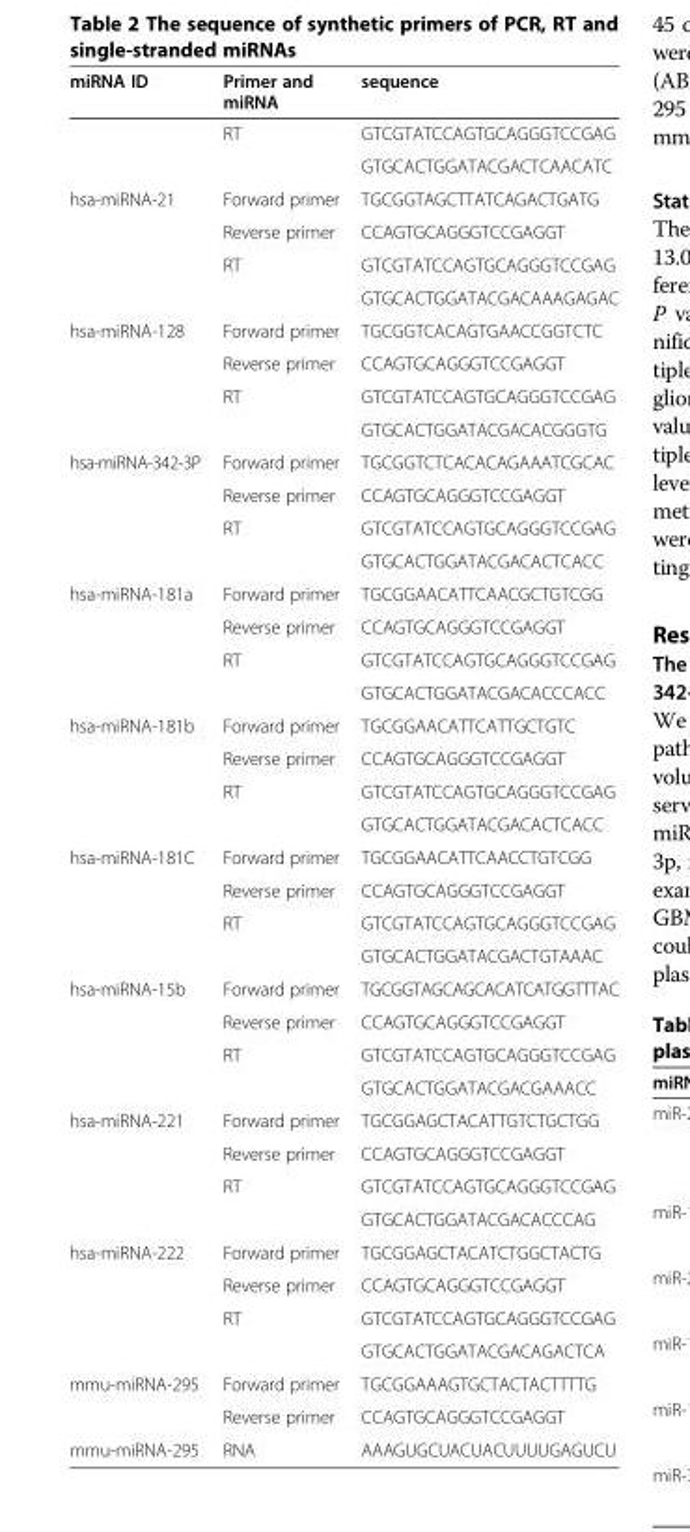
<table><thead><tr><td>miRNA ID</td><td>Primer and miRNA</td><td>sequence</td></tr></thead><tbody><tr><td rowspan="2"></td><td rowspan="2">RT</td><td>GTCGTATCCAGTGCAGGGTCCGAG</td></tr><tr><td>GTGCACTGGATACGACTCAACATC</td></tr><tr><td rowspan="4">hsa-miRNA-21</td><td>Forward primer</td><td>TGCGGTAGCTTATCAGACTGATG</td></tr><tr><td>Reverse primer</td><td>CCAGTGCAGGGTCCGAGGT</td></tr><tr><td rowspan="2">RT</td><td>GTCGTATCCAGTGCAGGGTCCGAG</td></tr><tr><td>GTGCACTGGATACGACAAAGAGAC</td></tr><tr><td rowspan="4">hsa-miRNA-128</td><td>Forward primer</td><td>TGCGGTCACAGTGAACCGGTCTC</td></tr><tr><td>Reverse primer</td><td>CCAGTGCAGGGTCCGAGGT</td></tr><tr><td rowspan="2">RT</td><td>GTCGTATCCAGTGCAGGGTCCGAG</td></tr><tr><td>GTGCACTGGATACGACACGGGTG</td></tr><tr><td rowspan="4">hsa-miRNA-342-3P</td><td>Forward primer</td><td>TGCGGTCTCACACAGAAATCGCAC</td></tr><tr><td>Reverse primer</td><td>CCAGTGCAGGGTCCGAGGT</td></tr><tr><td rowspan="2">RT</td><td>GTCGTATCCAGTGCAGGGTCCGAG</td></tr><tr><td>GTGCACTGGATACGACACTCACC</td></tr><tr><td rowspan="4">hsa-miRNA-181a</td><td>Forward primer</td><td>TGCGGAACATTCAACGCTGTCGG</td></tr><tr><td>Reverse primer</td><td>CCAGTGCAGGGTCCGAGGT</td></tr><tr><td rowspan="2">RT</td><td>GTCGTATCCAGTGCAGGGTCCGAG</td></tr><tr><td>GTGCACTGGATACGACACCCACC</td></tr><tr><td rowspan="4">hsa-miRNA-181b</td><td>Forward primer</td><td>TGCGGAACATTCATTGCTGTC</td></tr><tr><td>Reverse primer</td><td>CCAGTGCAGGGTCCGAGGT</td></tr><tr><td rowspan="2">RT</td><td>GTCGTATCCAGTGCAGGGTCCGAG</td></tr><tr><td>GTGCACTGGATACGACACTCACC</td></tr><tr><td rowspan="4">hsa-miRNA-181C</td><td>Forward primer</td><td>TGCGGAACATTCAACCTGTCGG</td></tr><tr><td>Reverse primer</td><td>CCAGTGCAGGGTCCGAGGT</td></tr><tr><td rowspan="2">RT</td><td>GTCGTATCCAGTGCAGGGTCCGAG</td></tr><tr><td>GTGCACTGGATACGACTGTAAAC</td></tr><tr><td rowspan="4">hsa-miRNA-15b</td><td>Forward primer</td><td>TGCGGTAGCAGCACATCATGGTTTAC</td></tr><tr><td>Reverse primer</td><td>CCAGTGCAGGGTCCGAGGT</td></tr><tr><td rowspan="2">RT</td><td>GTCGTATCCAGTGCAGGGTCCGAG</td></tr><tr><td>GTGCACTGGATACGACGAAACC</td></tr><tr><td rowspan="4">hsa-miRNA-221</td><td>Forward primer</td><td>TGCGGAGCTACATTGTCTGCTGG</td></tr><tr><td>Reverse primer</td><td>CCAGTGCAGGGTCCGAGGT</td></tr><tr><td rowspan="2">RT</td><td>GTCGTATCCAGTGCAGGGTCCGAG</td></tr><tr><td>GTGCACTGGATACGACACCCAG</td></tr><tr><td rowspan="4">hsa-miRNA-222</td><td>Forward primer</td><td>TGCGGAGCTACATCTGGCTACTG</td></tr><tr><td>Reverse primer</td><td>CCAGTGCAGGGTCCGAGGT</td></tr><tr><td rowspan="2">RT</td><td>GTCGTATCCAGTGCAGGGTCCGAG</td></tr><tr><td>GTGCACTGGATACGACAGACTCA</td></tr><tr><td rowspan="2">mmu-miRNA-295</td><td>Forward primer</td><td>TGCGGAAAGTGCTACTACTTTTG</td></tr><tr><td>Reverse primer</td><td>CCAGTGCAGGGTCCGAGGT</td></tr><tr><td>mmu-miRNA-295</td><td>RNA</td><td>AAAGUGCUACUACUUUUGAGUCU</td></tr></tbody></table>